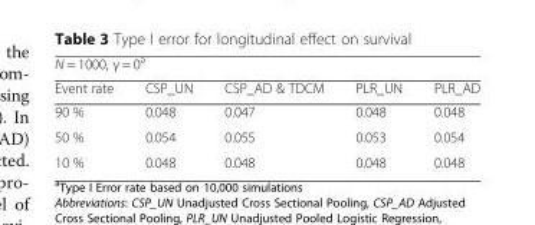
<table><thead><tr><td colspan="5">N = 1000, γ = 0<sup>a</sup></td></tr><tr><td>Event rate</td><td>CSP_UN</td><td>CSP_AD &amp; TDCM</td><td>PLR_UN</td><td>PLR_AD</td></tr></thead><tbody><tr><td>90 %</td><td>0.048</td><td>0.047</td><td>0.048</td><td>0.048</td></tr><tr><td>50 %</td><td>0.054</td><td>0.055</td><td>0.053</td><td>0.054</td></tr><tr><td>10 %</td><td>0.048</td><td>0.048</td><td>0.048</td><td>0.048</td></tr></tbody></table>